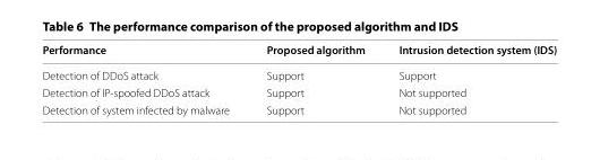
<table><thead><tr><td>Performance</td><td>Proposed algorithm</td><td>Intrusion detection system (IDS)</td></tr></thead><tbody><tr><td>Detection of DDoS attack</td><td>Support</td><td>Support</td></tr><tr><td>Detection of IP-spoofed DDoS attack</td><td>Support</td><td>Not supported</td></tr><tr><td>Detection of system infected by malware</td><td>Support</td><td>Not supported</td></tr></tbody></table>